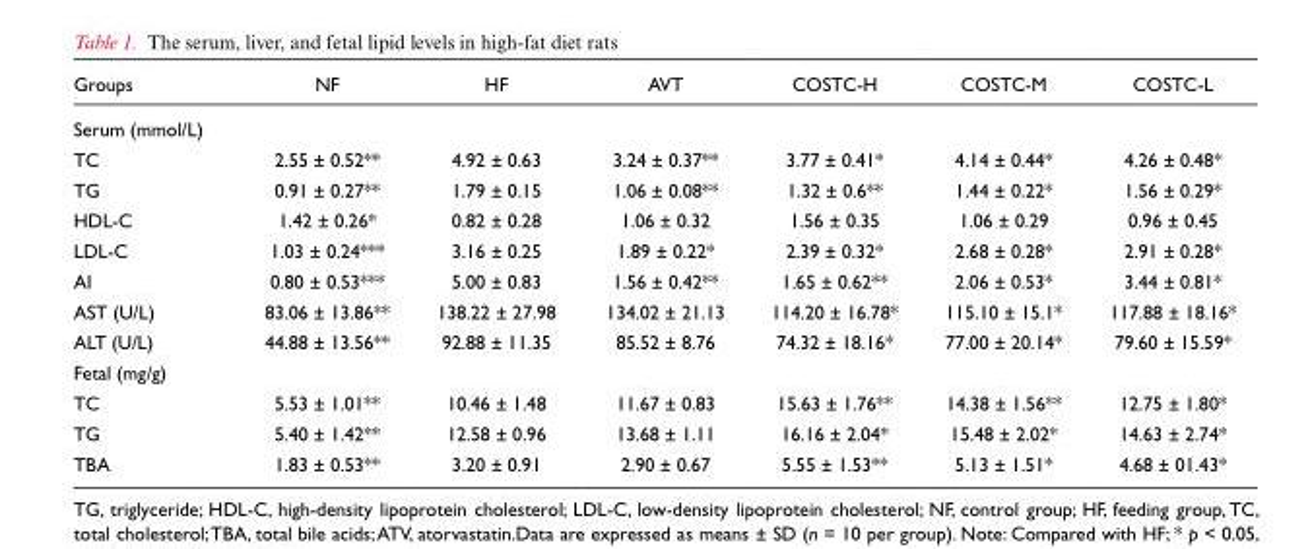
<table><thead><tr><td>Groups</td><td>NF</td><td>HF</td><td>AVT</td><td>COSTC-H</td><td>COSTC-M</td><td>COSTC-L</td></tr></thead><tbody><tr><td colspan="7">Serum (mmol/L)</td></tr><tr><td>TC</td><td>2.55 ± 0.52**</td><td>4.92 ± 0.63</td><td>3.24 ± 0.37**</td><td>3.77 ± 0.41*</td><td>4.14 ± 0.44*</td><td>4.26 ± 0.48*</td></tr><tr><td>TG</td><td>0.91 ± 0.27**</td><td>1.79 ± 0.15</td><td>1.06 ± 0.08**</td><td>1.32 ± 0.6**</td><td>1.44 ± 0.22*</td><td>1.56 ± 0.29*</td></tr><tr><td>HDL-C</td><td>1.42 ± 0.26*</td><td>0.82 ± 0.28</td><td>1.06 ± 0.32</td><td>1.56 ± 0.35</td><td>1.06 ± 0.29</td><td>0.96 ± 0.45</td></tr><tr><td>LDL-C</td><td>1.03 ± 0.24***</td><td>3.16 ± 0.25</td><td>1.89 ± 0.22*</td><td>2.39 ± 0.32*</td><td>2.68 ± 0.28*</td><td>2.91 ± 0.28*</td></tr><tr><td>AI</td><td>0.80 ± 0.53***</td><td>5.00 ± 0.83</td><td>1.56 ± 0.42**</td><td>1.65 ± 0.62**</td><td>2.06 ± 0.53*</td><td>3.44 ± 0.81*</td></tr><tr><td>AST (U/L)</td><td>83.06 ± 13.86**</td><td>138.22 ± 27.98</td><td>134.02 ± 21.13</td><td>114.20 ± 16.78*</td><td>115.10 ± 15.1*</td><td>117.88 ± 18.16*</td></tr><tr><td>ALT (U/L)</td><td>44.88 ± 13.56**</td><td>92.88 ± 11.35</td><td>85.52 ± 8.76</td><td>74.32 ± 18.16*</td><td>77.00 ± 20.14*</td><td>79.60 ± 15.59*</td></tr><tr><td colspan="7">Fetal (mg/g)</td></tr><tr><td>TC</td><td>5.53 ± 1.01**</td><td>10.46 ± 1.48</td><td>11.67 ± 0.83</td><td>15.63 ± 1.76**</td><td>14.38 ± 1.56**</td><td>12.75 ± 1.80*</td></tr><tr><td>TG</td><td>5.40 ± 1.42**</td><td>12.58 ± 0.96</td><td>13.68 ± 1.11</td><td>16.16 ± 2.04*</td><td>15.48 ± 2.02*</td><td>14.63 ± 2.74*</td></tr><tr><td>TBA</td><td>1.83 ± 0.53**</td><td>3.20 ± 0.91</td><td>2.90 ± 0.67</td><td>5.55 ± 1.53**</td><td>5.13 ± 1.51*</td><td>4.68 ± 01.43*</td></tr></tbody></table>